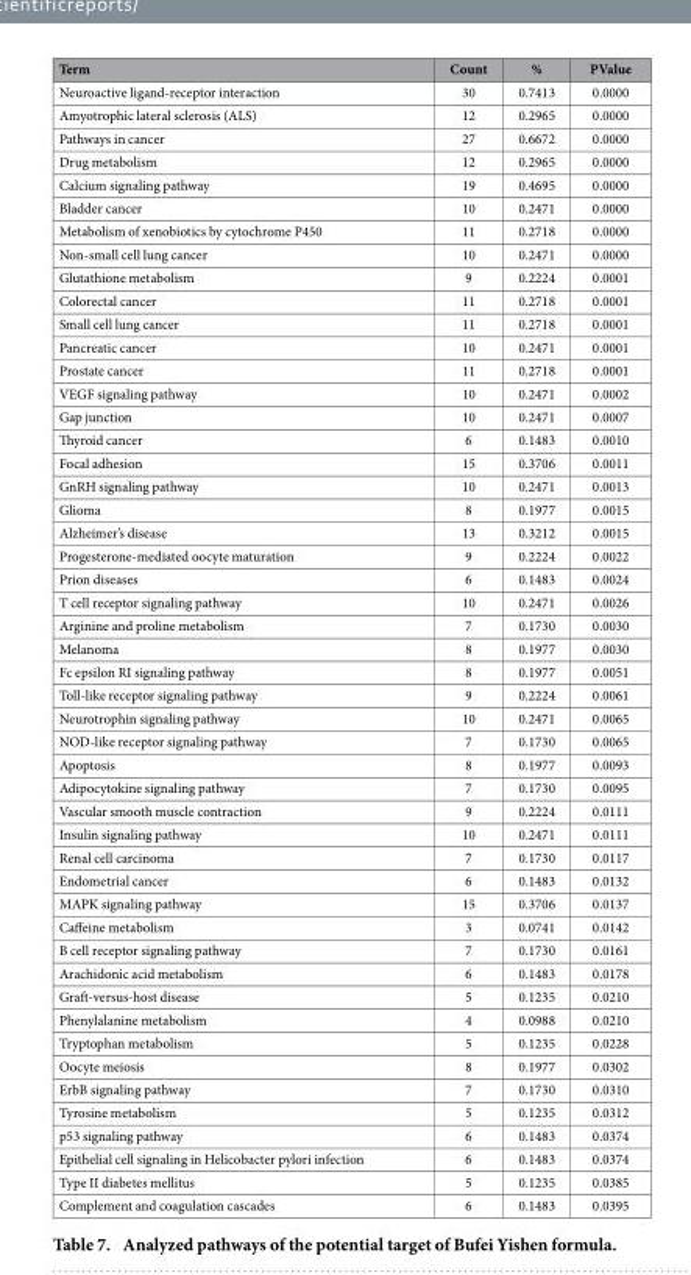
<table><thead><tr><td>Term</td><td>Count</td><td>%</td><td>PValue</td></tr></thead><tbody><tr><td>Neuroactive ligand-receptor interaction</td><td>30</td><td>0.7413</td><td>0.0000</td></tr><tr><td>Amyotrophic lateral sclerosis (ALS)</td><td>12</td><td>0.2965</td><td>0.0000</td></tr><tr><td>Pathways in cancer</td><td>27</td><td>0.6672</td><td>0.0000</td></tr><tr><td>Drug metabolism</td><td>12</td><td>0.2965</td><td>0.0000</td></tr><tr><td>Calcium signaling pathway</td><td>19</td><td>0.4695</td><td>0.0000</td></tr><tr><td>Bladder cancer</td><td>10</td><td>0.2471</td><td>0.0000</td></tr><tr><td>Metabolism of xenobiotics by cytochrome P450</td><td>11</td><td>0.2718</td><td>0.0000</td></tr><tr><td>Non-small cell lung cancer</td><td>10</td><td>0.2471</td><td>0.0000</td></tr><tr><td>Glutathione metabolism</td><td>9</td><td>0.2224</td><td>0.0001</td></tr><tr><td>Colorectal cancer</td><td>11</td><td>0.2718</td><td>0.0001</td></tr><tr><td>Small cell lung cancer</td><td>11</td><td>0.2718</td><td>0.0001</td></tr><tr><td>Pancreatic cancer</td><td>10</td><td>0.2471</td><td>0.0001</td></tr><tr><td>Prostate cancer</td><td>11</td><td>0.2718</td><td>0.0001</td></tr><tr><td>VEGF signaling pathway</td><td>10</td><td>0.2471</td><td>0.0002</td></tr><tr><td>Gap junction</td><td>10</td><td>0.2471</td><td>0.0007</td></tr><tr><td>Thyroid cancer</td><td>6</td><td>0.1483</td><td>0.0010</td></tr><tr><td>Focal adhesion</td><td>15</td><td>0.3706</td><td>0.0011</td></tr><tr><td>GnRH signaling pathway</td><td>10</td><td>0.2471</td><td>0.0013</td></tr><tr><td>Glioma</td><td>8</td><td>0.1977</td><td>0.0015</td></tr><tr><td>Alzheimer’s disease</td><td>13</td><td>0.3212</td><td>0.0015</td></tr><tr><td>Progesterone-mediated oocyte maturation</td><td>9</td><td>0.2224</td><td>0.0022</td></tr><tr><td>Prion diseases</td><td>6</td><td>0.1483</td><td>0.0024</td></tr><tr><td>T cell receptor signaling pathway</td><td>10</td><td>0.2471</td><td>0.0026</td></tr><tr><td>Arginine and proline metabolism</td><td>7</td><td>0.1730</td><td>0.0030</td></tr><tr><td>Melanoma</td><td>8</td><td>0.1977</td><td>0.0030</td></tr><tr><td>Fc epsilon RI signaling pathway</td><td>8</td><td>0.1977</td><td>0.0051</td></tr><tr><td>Toll-like receptor signaling pathway</td><td>9</td><td>0.2224</td><td>0.0061</td></tr><tr><td>Neurotrophin signaling pathway</td><td>10</td><td>0.2471</td><td>0.0065</td></tr><tr><td>NOD-like receptor signaling pathway</td><td>7</td><td>0.1730</td><td>0.0065</td></tr><tr><td>Apoptosis</td><td>8</td><td>0.1977</td><td>0.0093</td></tr><tr><td>Adipocytokine signaling pathway</td><td>7</td><td>0.1730</td><td>0.0095</td></tr><tr><td>Vascular smooth muscle contraction</td><td>9</td><td>0.2224</td><td>0.0111</td></tr><tr><td>Insulin signaling pathway</td><td>10</td><td>0.2471</td><td>0.0111</td></tr><tr><td>Renal cell carcinoma</td><td>7</td><td>0.1730</td><td>0.0117</td></tr><tr><td>Endometrial cancer</td><td>6</td><td>0.1483</td><td>0.0132</td></tr><tr><td>MAPK signaling pathway</td><td>15</td><td>0.3706</td><td>0.0137</td></tr><tr><td>Caffeine metabolism</td><td>3</td><td>0.0741</td><td>0.0142</td></tr><tr><td>B cell receptor signaling pathway</td><td>7</td><td>0.1730</td><td>0.0161</td></tr><tr><td>Arachidonic acid metabolism</td><td>6</td><td>0.1483</td><td>0.0178</td></tr><tr><td>Graft-versus-host disease</td><td>5</td><td>0.1235</td><td>0.0210</td></tr><tr><td>Phenylalanine metabolism</td><td>4</td><td>0.0988</td><td>0.0210</td></tr><tr><td>Tryptophan metabolism</td><td>5</td><td>0.1235</td><td>0.0228</td></tr><tr><td>Oocyte meiosis</td><td>8</td><td>0.1977</td><td>0.0302</td></tr><tr><td>ErbB signaling pathway</td><td>7</td><td>0.1730</td><td>0.0310</td></tr><tr><td>Tyrosine metabolism</td><td>5</td><td>0.1235</td><td>0.0312</td></tr><tr><td>p53 signaling pathway</td><td>6</td><td>0.1483</td><td>0.0374</td></tr><tr><td>Epithelial cell signaling in Helicobacter pylori infection</td><td>6</td><td>0.1483</td><td>0.0374</td></tr><tr><td>Type II diabetes mellitus</td><td>5</td><td>0.1235</td><td>0.0385</td></tr><tr><td>Complement and coagulation cascades</td><td>6</td><td>0.1483</td><td>0.0395</td></tr></tbody></table>